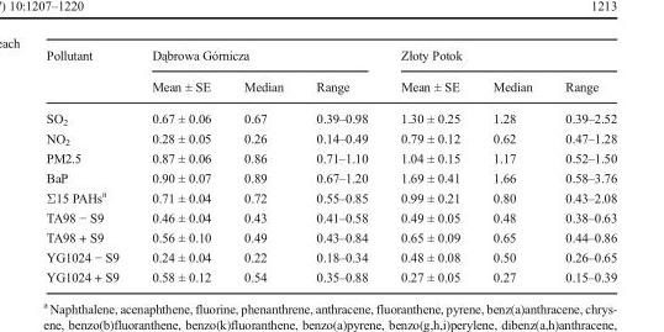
<table><thead><tr><td rowspan="2">Pollutant</td><td colspan="3">Dąbrowa Górnicza</td><td colspan="3">Złoty Potok</td></tr><tr><td>Mean ± SE</td><td>Median</td><td>Range</td><td>Mean ± SE</td><td>Median</td><td>Range</td></tr></thead><tbody><tr><td>SO<sub>2</sub></td><td>0.67 ± 0.06</td><td>0.67</td><td>0.39–0.98</td><td>1.30 ± 0.25</td><td>1.28</td><td>0.39–2.52</td></tr><tr><td>NO<sub>2</sub></td><td>0.28 ± 0.05</td><td>0.26</td><td>0.14–0.49</td><td>0.79 ± 0.12</td><td>0.62</td><td>0.47–1.28</td></tr><tr><td>PM2.5</td><td>0.87 ± 0.06</td><td>0.86</td><td>0.71–1.10</td><td>1.04 ± 0.15</td><td>1.17</td><td>0.52–1.50</td></tr><tr><td>BaP</td><td>0.90 ± 0.07</td><td>0.89</td><td>0.67–1.20</td><td>1.69 ± 0.41</td><td>1.66</td><td>0.58–3.76</td></tr><tr><td>Σ15 PAHs<sup>a</sup></td><td>0.71 ± 0.04</td><td>0.72</td><td>0.55–0.85</td><td>0.99 ± 0.21</td><td>0.80</td><td>0.43–2.08</td></tr><tr><td>TA98 − S9</td><td>0.46 ± 0.04</td><td>0.43</td><td>0.41–0.58</td><td>0.49 ± 0.05</td><td>0.48</td><td>0.38–0.63</td></tr><tr><td>TA98 + S9</td><td>0.56 ± 0.10</td><td>0.49</td><td>0.43–0.84</td><td>0.65 ± 0.09</td><td>0.65</td><td>0.44–0.86</td></tr><tr><td>YG1024 − S9</td><td>0.24 ± 0.04</td><td>0.22</td><td>0.18–0.34</td><td>0.48 ± 0.08</td><td>0.50</td><td>0.26–0.65</td></tr><tr><td>YG1024 + S9</td><td>0.58 ± 0.12</td><td>0.54</td><td>0.35–0.88</td><td>0.27 ± 0.05</td><td>0.27</td><td>0.15–0.39</td></tr></tbody></table>